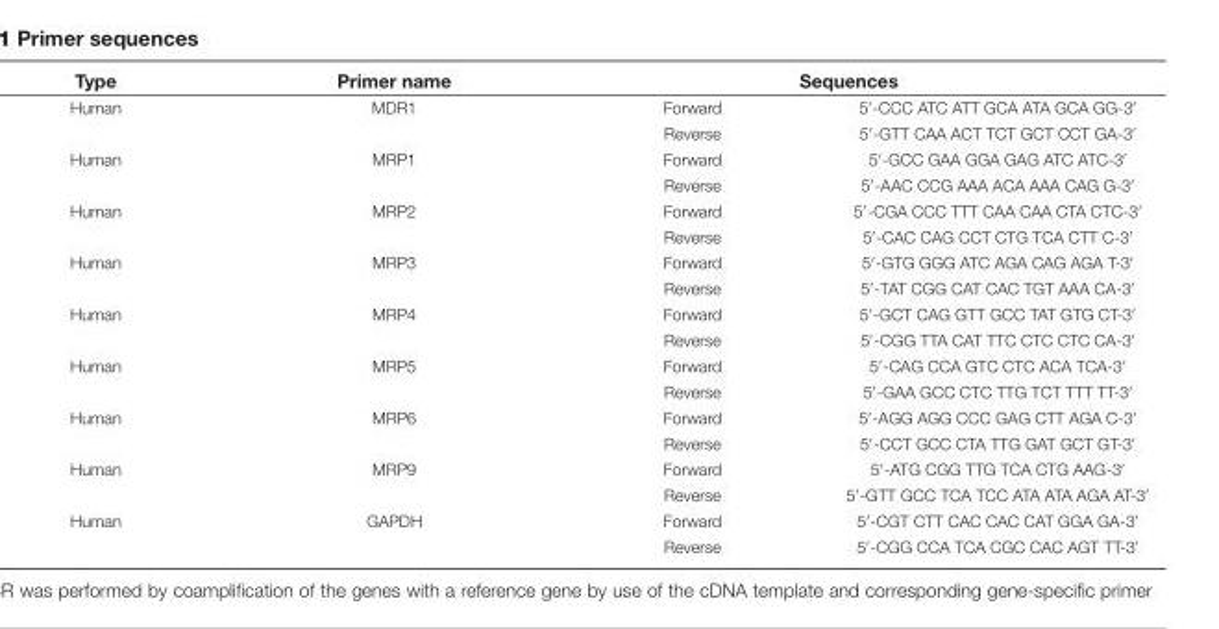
<table><thead><tr><td rowspan="2">Type Human</td><td rowspan="2">Primer name MDR1</td><td colspan="2">Sequences</td></tr><tr><td>Forward</td><td>5′-CCC ATC ATT GCA ATA GCA GG-3′</td></tr></thead><tbody><tr><td></td><td></td><td>Reverse</td><td>5′-GTT CAA ACT TCT GCT CCT GA-3′</td></tr><tr><td rowspan="2">Human</td><td>MRP1</td><td>Forward</td><td>5′-GCC GAA GGA GAG ATC ATC-3′</td></tr><tr><td></td><td>Reverse</td><td>5′-AAC CCG AAA ACA AAA CAG G-3′</td></tr><tr><td rowspan="2">Human</td><td>MRP2</td><td>Forward</td><td>5′-CGA CCC TTT CAA CAA CTA CTC-3′</td></tr><tr><td></td><td>Reverse</td><td>5′-CAC CAG CCT CTG TCA CTT C-3′</td></tr><tr><td rowspan="2">Human</td><td>MRP3</td><td>Forward</td><td>5′-GTG GGG ATC AGA CAG AGA T-3′</td></tr><tr><td></td><td>Reverse</td><td>5′-TAT CGG CAT CAC TGT AAA CA-3′</td></tr><tr><td rowspan="2">Human</td><td>MRP4</td><td>Forward</td><td>5′-GCT CAG GTT GCC TAT GTG CT-3′</td></tr><tr><td></td><td>Reverse</td><td>5′-CGG TTA CAT TTC CTC CTC CA-3′</td></tr><tr><td rowspan="2">Human</td><td>MRP5</td><td>Forward</td><td>5′-CAG CCA GTC CTC ACA TCA-3′</td></tr><tr><td></td><td>Reverse</td><td>5′-GAA GCC CTC TTG TCT TTT TT-3′</td></tr><tr><td rowspan="2">Human</td><td>MRP6</td><td>Forward</td><td>5′-AGG AGG CCC GAG CTT AGA C-3′</td></tr><tr><td></td><td>Reverse</td><td>5′-CCT GCC CTA TTG GAT GCT GT-3′</td></tr><tr><td rowspan="2">Human</td><td>MRP9</td><td>Forward</td><td>5′-ATG CGG TTG TCA CTG AAG-3′</td></tr><tr><td></td><td>Reverse</td><td>5′-GTT GCC TCA TCC ATA ATA AGA AT-3′</td></tr><tr><td rowspan="2">Human</td><td>GAPDH</td><td>Forward</td><td>5′-CGT CTT CAC CAC CAT GGA GA-3′</td></tr><tr><td></td><td>Reverse</td><td>5′-CGG CCA TCA CGC CAC AGT TT-3′</td></tr></tbody></table>